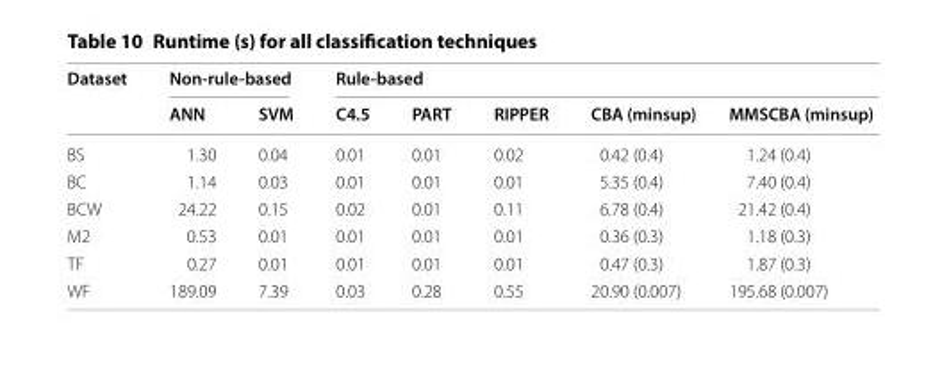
<table><thead><tr><td rowspan="2">Dataset</td><td colspan="2">Non-rule-based</td><td colspan="5">Rule-based</td></tr><tr><td>ANN</td><td>SVM</td><td>C4.5</td><td>PART</td><td>RIPPER</td><td>CBA (minsup)</td><td>MMSCBA (minsup)</td></tr></thead><tbody><tr><td>BS</td><td>1.30</td><td>0.04</td><td>0.01</td><td>0.01</td><td>0.02</td><td>0.42 (0.4)</td><td>1.24 (0.4)</td></tr><tr><td>BC</td><td>1.14</td><td>0.03</td><td>0.01</td><td>0.01</td><td>0.01</td><td>5.35 (0.4)</td><td>7.40 (0.4)</td></tr><tr><td>BCW</td><td>24.22</td><td>0.15</td><td>0.02</td><td>0.01</td><td>0.11</td><td>6.78 (0.4)</td><td>21.42 (0.4)</td></tr><tr><td>M2</td><td>0.53</td><td>0.01</td><td>0.01</td><td>0.01</td><td>0.01</td><td>0.36 (0.3)</td><td>1.18 (0.3)</td></tr><tr><td>TF</td><td>0.27</td><td>0.01</td><td>0.01</td><td>0.01</td><td>0.01</td><td>0.47 (0.3)</td><td>1.87 (0.3)</td></tr><tr><td>WF</td><td>189.09</td><td>7.39</td><td>0.03</td><td>0.28</td><td>0.55</td><td>20.90 (0.007)</td><td>195.68 (0.007)</td></tr></tbody></table>